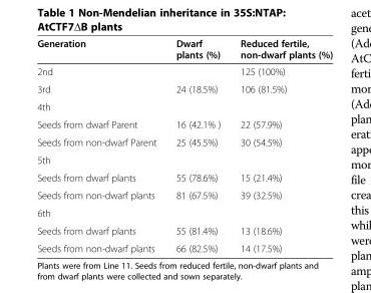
<table><thead><tr><td>Generation</td><td>Dwarf plants (%)</td><td>Reduced fertile, non-dwarf plants (%)</td></tr></thead><tbody><tr><td>2nd</td><td></td><td>125 (100%)</td></tr><tr><td>3rd</td><td>24 (18.5%)</td><td>106 (81.5%)</td></tr><tr><td colspan="3">4th</td></tr><tr><td>Seeds from dwarf Parent</td><td>16 (42.1% )</td><td>22 (57.9%)</td></tr><tr><td>Seeds from non-dwarf Parent</td><td>25 (45.5%)</td><td>30 (54.5%)</td></tr><tr><td colspan="3">5th</td></tr><tr><td>Seeds from dwarf plants</td><td>55 (78.6%)</td><td>15 (21.4%)</td></tr><tr><td>Seeds from non-dwarf plants</td><td>81 (67.5%)</td><td>39 (32.5%)</td></tr><tr><td colspan="3">6th</td></tr><tr><td>Seeds from dwarf plants</td><td>55 (81.4%)</td><td>13 (18.6%)</td></tr><tr><td>Seeds from non-dwarf plants</td><td>66 (82.5%)</td><td>14 (17.5%)</td></tr></tbody></table>